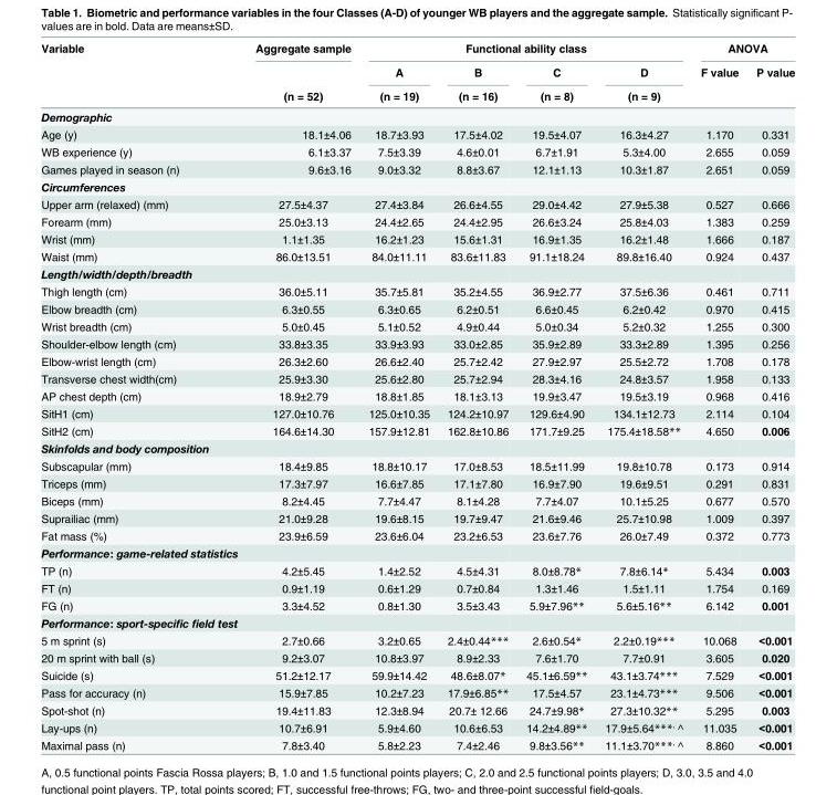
<table><thead><tr><td rowspan="3">Variable</td><td rowspan="3">Aggregate sample (n = 52)</td><td colspan="4">Functional ability class</td><td colspan="2">ANOVA</td></tr><tr><td rowspan="2">A (n = 19)</td><td rowspan="2">B (n = 16)</td><td rowspan="2">C (n = 8)</td><td rowspan="2">D (n = 9)</td><td rowspan="2">F value</td><td rowspan="2">P value</td></tr><tr></tr></thead><tbody><tr><td colspan="8">Demographic</td></tr><tr><td>Age (y)</td><td>18.1±4.06</td><td>18.7±3.93</td><td>17.5±4.02</td><td>19.5±4.07</td><td>16.3±4.27</td><td>1.170</td><td>0.331</td></tr><tr><td>WB experience (y)</td><td>6.1±3.37</td><td>7.5±3.39</td><td>4.6±0.01</td><td>6.7±1.91</td><td>5.3±4.00</td><td>2.655</td><td>0.059</td></tr><tr><td>Games played in season (n)</td><td>9.6±3.16</td><td>9.0±3.32</td><td>8.8±3.67</td><td>12.1±1.13</td><td>10.3±1.87</td><td>2.651</td><td>0.059</td></tr><tr><td colspan="8">Circumferences</td></tr><tr><td>Upper arm (relaxed) (mm)</td><td>27.5±4.37</td><td>27.4±3.84</td><td>26.6±4.55</td><td>29.0±4.42</td><td>27.9±5.38</td><td>0.527</td><td>0.666</td></tr><tr><td>Forearm (mm)</td><td>25.0±3.13</td><td>24.4±2.65</td><td>24.4±2.95</td><td>26.6±3.24</td><td>25.8±4.03</td><td>1.383</td><td>0.259</td></tr><tr><td>Wrist (mm)</td><td>1.1±1.35</td><td>16.2±1.23</td><td>15.6±1.31</td><td>16.9±1.35</td><td>16.2±1.48</td><td>1.666</td><td>0.187</td></tr><tr><td>Waist (mm)</td><td>86.0±13.51</td><td>84.0±11.11</td><td>83.6±11.83</td><td>91.1±18.24</td><td>89.8±16.40</td><td>0.924</td><td>0.437</td></tr><tr><td colspan="8">Length/width/depth/breadth</td></tr><tr><td>Thigh length (cm)</td><td>36.0±5.11</td><td>35.7±5.81</td><td>35.2±4.55</td><td>36.9±2.77</td><td>37.5±6.36</td><td>0.461</td><td>0.711</td></tr><tr><td>Elbow breadth (cm)</td><td>6.3±0.55</td><td>6.3±0.65</td><td>6.2±0.51</td><td>6.6±0.45</td><td>6.2±0.42</td><td>0.970</td><td>0.415</td></tr><tr><td>Wrist breadth (cm)</td><td>5.0±0.45</td><td>5.1±0.52</td><td>4.9±0.44</td><td>5.0±0.34</td><td>5.2±0.32</td><td>1.255</td><td>0.300</td></tr><tr><td>Shoulder-elbow length (cm)</td><td>33.8±3.35</td><td>33.9±3.93</td><td>33.0±2.85</td><td>35.9±2.89</td><td>33.3±2.89</td><td>1.395</td><td>0.256</td></tr><tr><td>Elbow-wrist length (cm)</td><td>26.3±2.60</td><td>26.6±2.40</td><td>25.7±2.42</td><td>27.9±2.97</td><td>25.5±2.72</td><td>1.708</td><td>0.178</td></tr><tr><td>Transverse chest width(cm)</td><td>25.9±3.30</td><td>25.6±2.80</td><td>25.7±2.94</td><td>28.3±4.16</td><td>24.8±3.57</td><td>1.958</td><td>0.133</td></tr><tr><td>AP chest depth (cm)</td><td>18.9±2.79</td><td>18.8±1.85</td><td>18.1±3.13</td><td>19.9±3.47</td><td>19.5±3.19</td><td>0.968</td><td>0.416</td></tr><tr><td>SitH1 (cm)</td><td>127.0±10.76</td><td>125.0±10.35</td><td>124.2±10.97</td><td>129.6±4.90</td><td>134.1±12.73</td><td>2.114</td><td>0.104</td></tr><tr><td>SitH2 (cm)</td><td>164.6±14.30</td><td>157.9±12.81</td><td>162.8±10.86</td><td>171.7±9.25</td><td>175.4±18.58**</td><td>4.650</td><td>0.006</td></tr><tr><td colspan="8">Skinfolds and body composition</td></tr><tr><td>Subscapular (mm)</td><td>18.4±9.85</td><td>18.8±10.17</td><td>17.0±8.53</td><td>18.5±11.99</td><td>19.8±10.78</td><td>0.173</td><td>0.914</td></tr><tr><td>Triceps (mm)</td><td>17.3±7.97</td><td>16.6±7.85</td><td>17.1±7.80</td><td>16.9±7.90</td><td>19.6±9.51</td><td>0.291</td><td>0.831</td></tr><tr><td>Biceps (mm)</td><td>8.2±4.45</td><td>7.7±4.47</td><td>8.1±4.28</td><td>7.7±4.07</td><td>10.1±5.25</td><td>0.677</td><td>0.570</td></tr><tr><td>Suprailiac (mm)</td><td>21.0±9.28</td><td>19.6±8.15</td><td>19.7±9.47</td><td>21.6±9.46</td><td>25.7±10.98</td><td>1.009</td><td>0.397</td></tr><tr><td>Fat mass (%)</td><td>23.9±6.59</td><td>23.6±6.04</td><td>23.2±6.53</td><td>23.6±7.76</td><td>26.0±7.49</td><td>0.372</td><td>0.773</td></tr><tr><td colspan="8">Performance: game-related statistics</td></tr><tr><td>TP (n)</td><td>4.2±5.45</td><td>1.4±2.52</td><td>4.5±4.31</td><td>8.0±8.78*</td><td>7.8±6.14*</td><td>5.434</td><td>0.003</td></tr><tr><td>FT (n)</td><td>0.9±1.19</td><td>0.6±1.29</td><td>0.7±0.84</td><td>1.3±1.46</td><td>1.5±1.11</td><td>1.754</td><td>0.169</td></tr><tr><td>FG (n)</td><td>3.3±4.52</td><td>0.8±1.30</td><td>3.5±3.43</td><td>5.9±7.96**</td><td>5.6±5.16**</td><td>6.142</td><td>0.001</td></tr><tr><td colspan="8">Performance: sport-specific field test</td></tr><tr><td>5 m sprint (s)</td><td>2.7±0.66</td><td>3.2±0.65</td><td>2.4±0.44***</td><td>2.6±0.54*</td><td>2.2±0.19***</td><td>10.068</td><td>&lt;0.001</td></tr><tr><td>20 m sprint with ball (s)</td><td>9.2±3.07</td><td>10.8±3.97</td><td>8.9±2.33</td><td>7.6±1.70</td><td>7.7±0.91</td><td>3.605</td><td>0.020</td></tr><tr><td>Suicide (s)</td><td>51.2±12.17</td><td>59.9±14.42</td><td>48.6±8.07*</td><td>45.1±6.59**</td><td>43.1±3.74***</td><td>7.529</td><td>&lt;0.001</td></tr><tr><td>Pass for accuracy (n)</td><td>15.9±7.85</td><td>10.2±7.23</td><td>17.9±6.85**</td><td>17.5±4.57</td><td>23.1±4.73***</td><td>9.506</td><td>&lt;0.001</td></tr><tr><td>Spot-shot (n)</td><td>19.4±11.83</td><td>12.3±8.94</td><td>20.7± 12.66</td><td>24.7±9.98*</td><td>27.3±10.32**</td><td>5.295</td><td>0.003</td></tr><tr><td>Lay-ups (n)</td><td>10.7±6.91</td><td>5.9±4.60</td><td>10.6±6.53</td><td>14.2±4.89**</td><td>17.9±5.64***, ^</td><td>11.035</td><td>&lt;0.001</td></tr><tr><td>Maximal pass (n)</td><td>7.8±3.40</td><td>5.8±2.23</td><td>7.4±2.46</td><td>9.8±3.56**</td><td>11.1±3.70***, ^</td><td>8.860</td><td>&lt;0.001</td></tr></tbody></table>